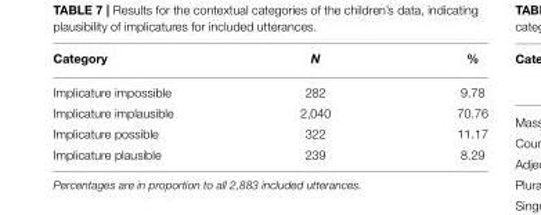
<table><thead><tr><td>Category</td><td>N</td><td>%</td></tr></thead><tbody><tr><td>Implicature impossible</td><td>282</td><td>9.78</td></tr><tr><td>Implicature implausible</td><td>2,040</td><td>70.76</td></tr><tr><td>Implicature possible</td><td>322</td><td>11.17</td></tr><tr><td>Implicature plausible</td><td>239</td><td>8.29</td></tr></tbody></table>